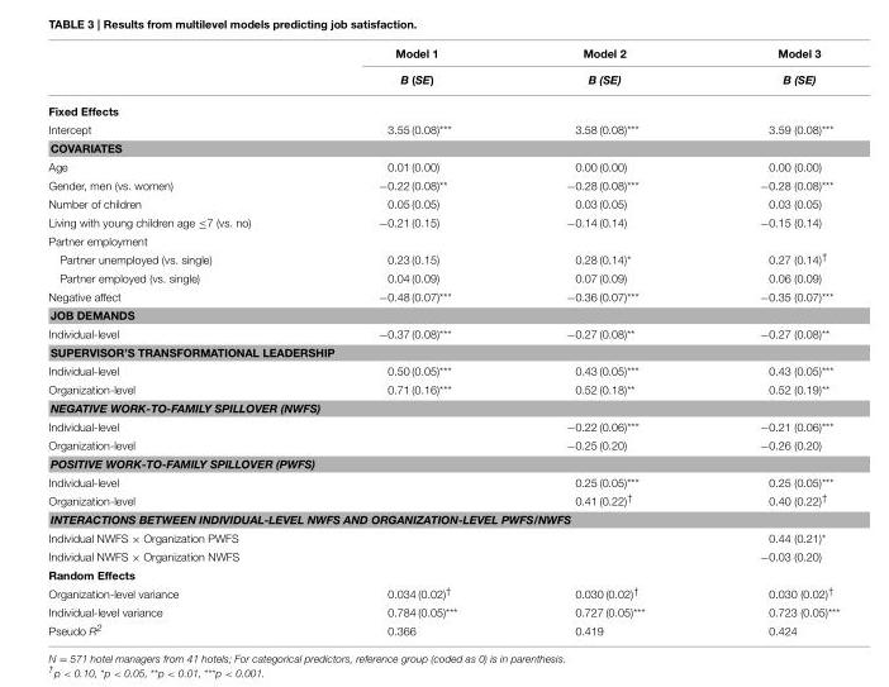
<table><thead><tr><td rowspan="2"></td><td rowspan="2">Model 1 B (SE)</td><td rowspan="2">Model 2 B (SE)</td><td rowspan="2">Model 3 B (SE)</td></tr><tr></tr></thead><tbody><tr><td colspan="4">Fixed Effects</td></tr><tr><td>Intercept</td><td>3.55 (0.08)***</td><td>3.58 (0.08)***</td><td>3.59 (0.08)***</td></tr><tr><td colspan="4">COVARIATES</td></tr><tr><td>Age</td><td>0.01 (0.00)</td><td>0.00 (0.00)</td><td>0.00 (0.00)</td></tr><tr><td>Gender, men (vs. women)</td><td>−0.22 (0.08)**</td><td>−0.28 (0.08)***</td><td>−0.28 (0.08)***</td></tr><tr><td>Number of children</td><td>0.05 (0.05)</td><td>0.03 (0.05)</td><td>0.03 (0.05)</td></tr><tr><td>Living with young children age ≤7 (vs. no)</td><td>−0.21 (0.15)</td><td>−0.14 (0.14)</td><td>−0.15 (0.14)</td></tr><tr><td colspan="4">Partner employment</td></tr><tr><td>Partner unemployed (vs. single)</td><td>0.23 (0.15)</td><td>0.28 (0.14)*</td><td>0.27 (0.14)<sup>†</sup></td></tr><tr><td>Partner employed (vs. single)</td><td>0.04 (0.09)</td><td>0.07 (0.09)</td><td>0.06 (0.09)</td></tr><tr><td>Negative affect</td><td>−0.48 (0.07)***</td><td>−0.36 (0.07)***</td><td>−0.35 (0.07)***</td></tr><tr><td colspan="4">JOB DEMANDS</td></tr><tr><td>Individual-level</td><td>−0.37 (0.08)***</td><td>−0.27 (0.08)**</td><td>−0.27 (0.08)**</td></tr><tr><td colspan="4">SUPERVISOR’S TRANSFORMATIONAL LEADERSHIP</td></tr><tr><td>Individual-level</td><td>0.50 (0.05)***</td><td>0.43 (0.05)***</td><td>0.43 (0.05)***</td></tr><tr><td>Organization-level</td><td>0.71 (0.16)***</td><td>0.52 (0.18)**</td><td>0.52 (0.19)**</td></tr><tr><td colspan="4">NEGATIVE WORK-TO-FAMILY SPILLOVER (NWFS)</td></tr><tr><td>Individual-level</td><td></td><td>−0.22 (0.06)***</td><td>−0.21 (0.06)***</td></tr><tr><td>Organization-level</td><td></td><td>−0.25 (0.20)</td><td>−0.26 (0.20)</td></tr><tr><td colspan="4">POSITIVE WORK-TO-FAMILY SPILLOVER (PWFS)</td></tr><tr><td>Individual-level</td><td></td><td>0.25 (0.05)***</td><td>0.25 (0.05)***</td></tr><tr><td>Organization-level</td><td></td><td>0.41 (0.22)<sup>†</sup></td><td>0.40 (0.22)<sup>†</sup></td></tr><tr><td colspan="4">INTERACTIONS BETWEEN INDIVIDUAL-LEVEL NWFS AND ORGANIZATION-LEVEL PWFS/NWFS</td></tr><tr><td>Individual NWFS × Organization PWFS</td><td></td><td></td><td>0.44 (0.21)*</td></tr><tr><td>Individual NWFS × Organization NWFS</td><td></td><td></td><td>−0.03 (0.20)</td></tr><tr><td colspan="4">Random Effects</td></tr><tr><td>Organization-level variance</td><td>0.034 (0.02)<sup>†</sup></td><td>0.030 (0.02)<sup>†</sup></td><td>0.030 (0.02)<sup>†</sup></td></tr><tr><td>Individual-level variance</td><td>0.784 (0.05)***</td><td>0.727 (0.05)***</td><td>0.723 (0.05)***</td></tr><tr><td>Pseudo R<sup>2</sup></td><td>0.366</td><td>0.419</td><td>0.424</td></tr></tbody></table>